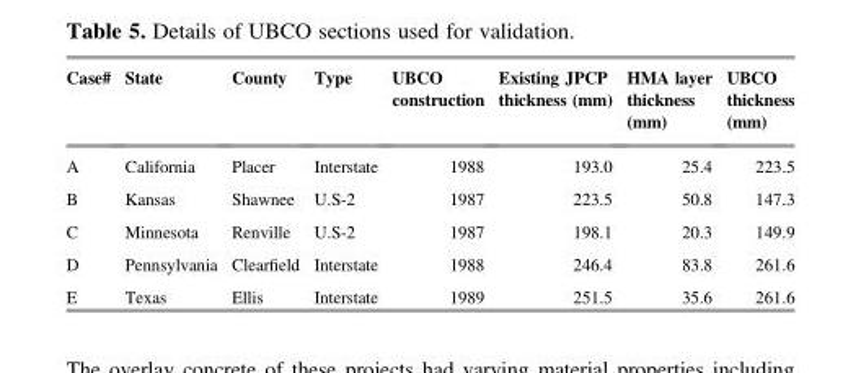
<table><thead><tr><td>Case#</td><td>State</td><td>County</td><td>Type</td><td>UBCO construction</td><td>Existing JPCP thickness (mm)</td><td>HMA layer thickness (mm)</td><td>UBCO thickness (mm)</td></tr></thead><tbody><tr><td>A</td><td>California</td><td>Placer</td><td>Interstate</td><td>1988</td><td>193.0</td><td>25.4</td><td>223.5</td></tr><tr><td>B</td><td>Kansas</td><td>Shawnee</td><td>U.S-2</td><td>1987</td><td>223.5</td><td>50.8</td><td>147.3</td></tr><tr><td>C</td><td>Minnesota</td><td>Renville</td><td>U.S-2</td><td>1987</td><td>198.1</td><td>20.3</td><td>149.9</td></tr><tr><td>D</td><td>Pennsylvania</td><td>Clearfield</td><td>Interstate</td><td>1988</td><td>246.4</td><td>83.8</td><td>261.6</td></tr><tr><td>E</td><td>Texas</td><td>Ellis</td><td>Interstate</td><td>1989</td><td>251.5</td><td>35.6</td><td>261.6</td></tr></tbody></table>